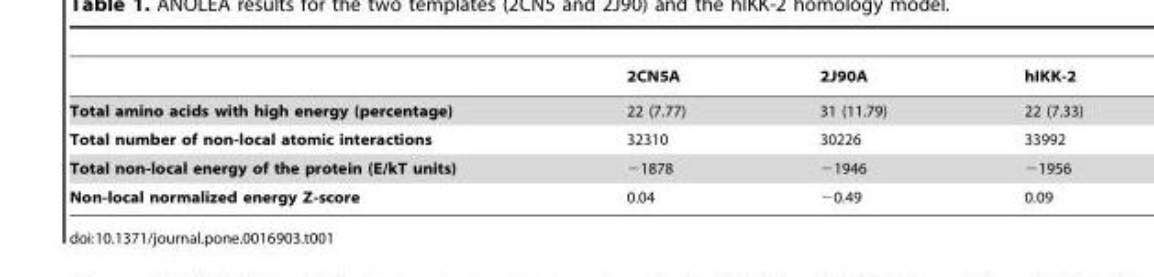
<table><thead><tr><td></td><td>2CN5A</td><td>2J90A</td><td>hIKK-2</td></tr></thead><tbody><tr><td>Total amino acids with high energy (percentage)</td><td>22 (7.77)</td><td>31 (11.79)</td><td>22 (7.33)</td></tr><tr><td>Total number of non-local atomic interactions</td><td>32310</td><td>30226</td><td>33992</td></tr><tr><td>Total non-local energy of the protein (E/kT units)</td><td>−1878</td><td>−1946</td><td>−1956</td></tr><tr><td>Non-local normalized energy Z-score</td><td>0.04</td><td>−0.49</td><td>0.09</td></tr></tbody></table>